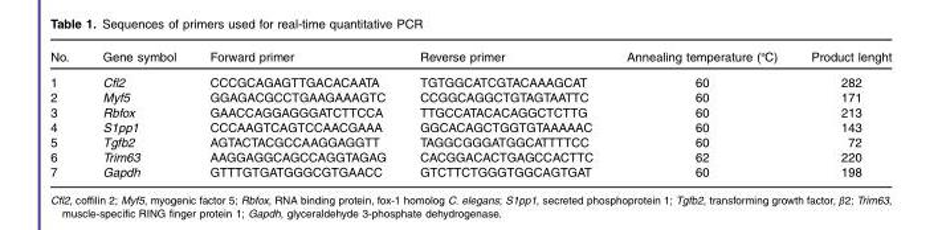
<table><thead><tr><td>No.</td><td>Gene symbol</td><td>Forward primer</td><td>Reverse primer</td><td>Annealing temperature (ºC)</td><td>Product lenght</td></tr></thead><tbody><tr><td>1</td><td>Cfl2</td><td>CCCGCAGAGTTGACACAATA</td><td>TGTGGCATCGTACAAAGCAT</td><td>60</td><td>282</td></tr><tr><td>2</td><td>Myf5</td><td>GGAGACGCCTGAAGAAAGTC</td><td>CCGGCAGGCTGTAGTAATTC</td><td>60</td><td>171</td></tr><tr><td>3</td><td>Rbfox</td><td>GAACCAGGAGGGATCTTCCA</td><td>TTGCCATACACAGGCTCTTG</td><td>60</td><td>213</td></tr><tr><td>4</td><td>S1pp1</td><td>CCCAAGTCAGTCCAACGAAA</td><td>GGCACAGCTGGTGTAAAAAC</td><td>60</td><td>143</td></tr><tr><td>5</td><td>Tgfb2</td><td>AGTACTACGCCAAGGAGGTT</td><td>TAGGCGGGATGGCATTTTCC</td><td>60</td><td>72</td></tr><tr><td>6</td><td>Trim63</td><td>AAGGAGGCAGCCAGGTAGAG</td><td>CACGGACACTGAGCCACTTC</td><td>62</td><td>220</td></tr><tr><td>7</td><td>Gapdh</td><td>GTTTGTGATGGGCGTGAACC</td><td>GTCTTCTGGGTGGCAGTGAT</td><td>60</td><td>198</td></tr></tbody></table>